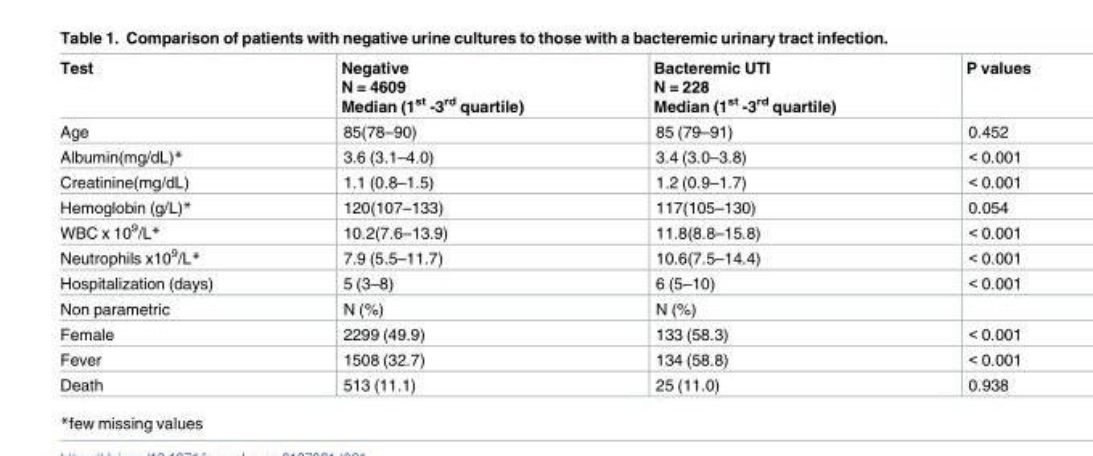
<table><thead><tr><td>Test</td><td>Negative N = 4609 Median (1<sup>st</sup> -3<sup>rd</sup> quartile)</td><td>Bacteremic UTI N = 228 Median (1<sup>st</sup> -3<sup>rd</sup> quartile)</td><td>P values</td></tr></thead><tbody><tr><td>Age</td><td>85(78–90)</td><td>85 (79–91)</td><td>0.452</td></tr><tr><td>Albumin(mg/dL)*</td><td>3.6 (3.1–4.0)</td><td>3.4 (3.0–3.8)</td><td>&lt; 0.001</td></tr><tr><td>Creatinine(mg/dL)</td><td>1.1 (0.8–1.5)</td><td>1.2 (0.9–1.7)</td><td>&lt; 0.001</td></tr><tr><td>Hemoglobin (g/L)*</td><td>120(107–133)</td><td>117(105–130)</td><td>0.054</td></tr><tr><td>WBC x 10<sup>9</sup>/L*</td><td>10.2(7.6–13.9)</td><td>11.8(8.8–15.8)</td><td>&lt; 0.001</td></tr><tr><td>Neutrophils x10<sup>9</sup>/L*</td><td>7.9 (5.5–11.7)</td><td>10.6(7.5–14.4)</td><td>&lt; 0.001</td></tr><tr><td>Hospitalization (days)</td><td>5 (3–8)</td><td>6 (5–10)</td><td>&lt; 0.001</td></tr><tr><td>Non parametric</td><td>N (%)</td><td>N (%)</td><td></td></tr><tr><td>Female</td><td>2299 (49.9)</td><td>133 (58.3)</td><td>&lt; 0.001</td></tr><tr><td>Fever</td><td>1508 (32.7)</td><td>134 (58.8)</td><td>&lt; 0.001</td></tr><tr><td>Death</td><td>513 (11.1)</td><td>25 (11.0)</td><td>0.938</td></tr></tbody></table>